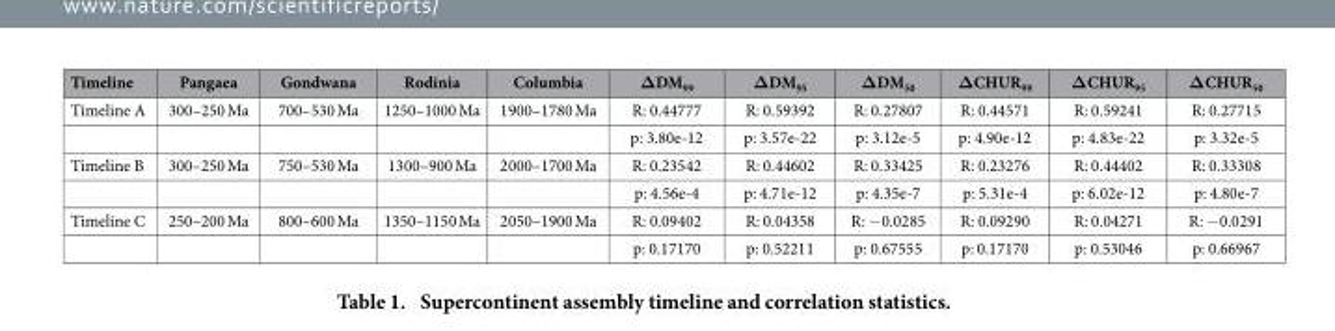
<table><thead><tr><td>Timeline</td><td>Pangaea</td><td>Gondwana</td><td>Rodinia</td><td>Columbia</td><td>ΔDM<sub>99</sub></td><td>ΔDM<sub>95</sub></td><td>ΔDM<sub>50</sub></td><td>ΔCHUR<sub>99</sub></td><td>ΔCHUR<sub>95</sub></td><td>ΔCHUR<sub>50</sub></td></tr></thead><tbody><tr><td rowspan="2">Timeline A</td><td>300–250 Ma</td><td>700–530 Ma</td><td>1250–1000 Ma</td><td>1900–1780 Ma</td><td>R: 0.44777</td><td>R: 0.59392</td><td>R: 0.27807</td><td>R: 0.44571</td><td>R: 0.59241</td><td>R: 0.27715</td></tr><tr><td></td><td></td><td></td><td></td><td>p: 3.80e-12</td><td>p: 3.57e-22</td><td>p: 3.12e-5</td><td>p: 4.90e-12</td><td>p: 4.83e-22</td><td>p: 3.32e-5</td></tr><tr><td rowspan="2">Timeline B</td><td>300–250 Ma</td><td>750–530 Ma</td><td>1300–900 Ma</td><td>2000–1700 Ma</td><td>R: 0.23542</td><td>R: 0.44602</td><td>R: 0.33425</td><td>R: 0.23276</td><td>R: 0.44402</td><td>R: 0.33308</td></tr><tr><td></td><td></td><td></td><td></td><td>p: 4.56e-4</td><td>p: 4.71e-12</td><td>p: 4.35e-7</td><td>p: 5.31e-4</td><td>p: 6.02e-12</td><td>p: 4.80e-7</td></tr><tr><td rowspan="2">Timeline C</td><td>250–200 Ma</td><td>800–600 Ma</td><td>1350–1150 Ma</td><td>2050–1900 Ma</td><td>R: 0.09402</td><td>R: 0.04358</td><td>R: − 0.0285</td><td>R: 0.09290</td><td>R: 0.04271</td><td>R: − 0.0291</td></tr><tr><td></td><td></td><td></td><td></td><td>p: 0.17170</td><td>p: 0.52211</td><td>p: 0.67555</td><td>p: 0.17170</td><td>p: 0.53046</td><td>p: 0.66967</td></tr></tbody></table>